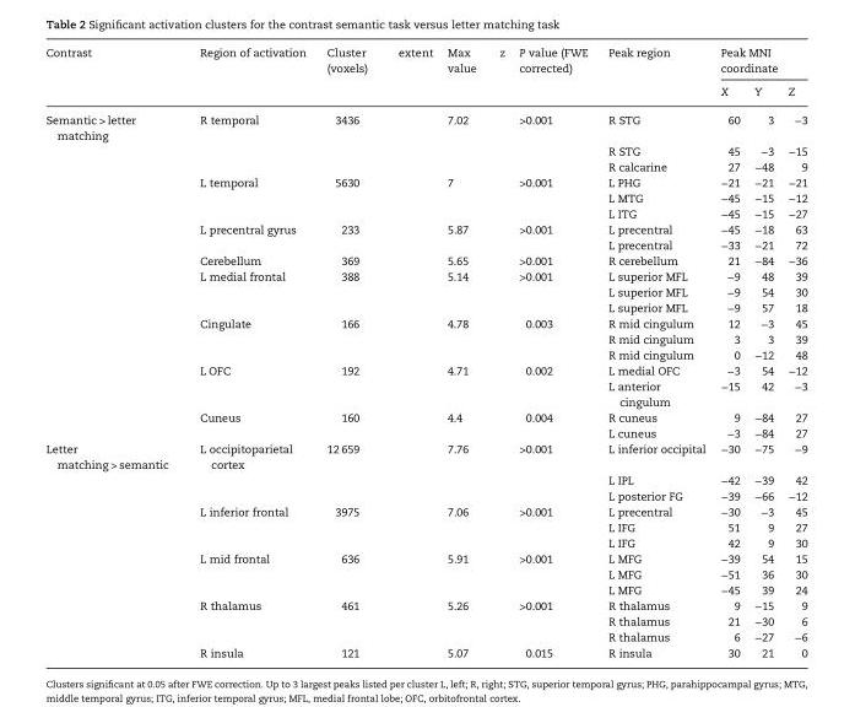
<table><thead><tr><td rowspan="2">Contrast</td><td rowspan="2">Region of activation</td><td rowspan="2">Cluster extent (voxels)</td><td rowspan="2">Max z value</td><td rowspan="2">P value (FWE corrected)</td><td rowspan="2">Peak region</td><td colspan="3">Peak MNI coordinate</td></tr><tr><td>X</td><td>Y</td><td>Z</td></tr></thead><tbody><tr><td rowspan="19">Semantic &gt; letter matching</td><td>R temporal</td><td>3436</td><td>7.02</td><td>&gt;0.001</td><td>R STG</td><td>60</td><td>3</td><td>−3</td></tr><tr><td></td><td></td><td></td><td></td><td>R STG</td><td>45</td><td>−3</td><td>−15</td></tr><tr><td></td><td></td><td></td><td></td><td>R calcarine</td><td>27</td><td>−48</td><td>9</td></tr><tr><td>L temporal</td><td>5630</td><td>7</td><td>&gt;0.001</td><td>L PHG</td><td>−21</td><td>−21</td><td>−21</td></tr><tr><td></td><td></td><td></td><td></td><td>L MTG</td><td>−45</td><td>−15</td><td>−12</td></tr><tr><td></td><td></td><td></td><td></td><td>L ITG</td><td>−45</td><td>−15</td><td>−27</td></tr><tr><td>L precentral gyrus</td><td>233</td><td>5.87</td><td>&gt;0.001</td><td>L precentral</td><td>−45</td><td>−18</td><td>63</td></tr><tr><td></td><td></td><td></td><td></td><td>L precentral</td><td>−33</td><td>−21</td><td>72</td></tr><tr><td>Cerebellum</td><td>369</td><td>5.65</td><td>&gt;0.001</td><td>R cerebellum</td><td>21</td><td>−84</td><td>−36</td></tr><tr><td>L medial frontal</td><td>388</td><td>5.14</td><td>&gt;0.001</td><td>L superior MFL</td><td>−9</td><td>48</td><td>39</td></tr><tr><td></td><td></td><td></td><td></td><td>L superior MFL</td><td>−9</td><td>54</td><td>30</td></tr><tr><td></td><td></td><td></td><td></td><td>L superior MFL</td><td>−9</td><td>57</td><td>18</td></tr><tr><td>Cingulate</td><td>166</td><td>4.78</td><td>0.003</td><td>R mid cingulum</td><td>12</td><td>−3</td><td>45</td></tr><tr><td></td><td></td><td></td><td></td><td>R mid cingulum</td><td>3</td><td>3</td><td>39</td></tr><tr><td></td><td></td><td></td><td></td><td>R mid cingulum</td><td>0</td><td>−12</td><td>48</td></tr><tr><td>L OFC</td><td>192</td><td>4.71</td><td>0.002</td><td>L medial OFC</td><td>−3</td><td>54</td><td>−12</td></tr><tr><td></td><td></td><td></td><td></td><td>L anterior cingulum</td><td>−15</td><td>42</td><td>−3</td></tr><tr><td>Cuneus</td><td>160</td><td>4.4</td><td>0.004</td><td>R cuneus</td><td>9</td><td>−84</td><td>27</td></tr><tr><td></td><td></td><td></td><td></td><td>L cuneus</td><td>−3</td><td>−84</td><td>27</td></tr><tr><td rowspan="13">Letter matching &gt; semantic</td><td>L occipitoparietal cortex</td><td>12 659</td><td>7.76</td><td>&gt;0.001</td><td>L inferior occipital</td><td>−30</td><td>−75</td><td>−9</td></tr><tr><td></td><td></td><td></td><td></td><td>L IPL</td><td>−42</td><td>−39</td><td>42</td></tr><tr><td></td><td></td><td></td><td></td><td>L posterior FG</td><td>−39</td><td>−66</td><td>−12</td></tr><tr><td>L inferior frontal</td><td>3975</td><td>7.06</td><td>&gt;0.001</td><td>L precentral</td><td>−30</td><td>−3</td><td>45</td></tr><tr><td></td><td></td><td></td><td></td><td>L IFG</td><td>51</td><td>9</td><td>27</td></tr><tr><td></td><td></td><td></td><td></td><td>L IFG</td><td>42</td><td>9</td><td>30</td></tr><tr><td>L mid frontal</td><td>636</td><td>5.91</td><td>&gt;0.001</td><td>L MFG</td><td>−39</td><td>54</td><td>15</td></tr><tr><td></td><td></td><td></td><td></td><td>L MFG</td><td>−51</td><td>36</td><td>30</td></tr><tr><td></td><td></td><td></td><td></td><td>L MFG</td><td>−45</td><td>39</td><td>24</td></tr><tr><td>R thalamus</td><td>461</td><td>5.26</td><td>&gt;0.001</td><td>R thalamus</td><td>9</td><td>−15</td><td>9</td></tr><tr><td></td><td></td><td></td><td></td><td>R thalamus</td><td>21</td><td>−30</td><td>6</td></tr><tr><td></td><td></td><td></td><td></td><td>R thalamus</td><td>6</td><td>−27</td><td>−6</td></tr><tr><td>R insula</td><td>121</td><td>5.07</td><td>0.015</td><td>R insula</td><td>30</td><td>21</td><td>0</td></tr></tbody></table>